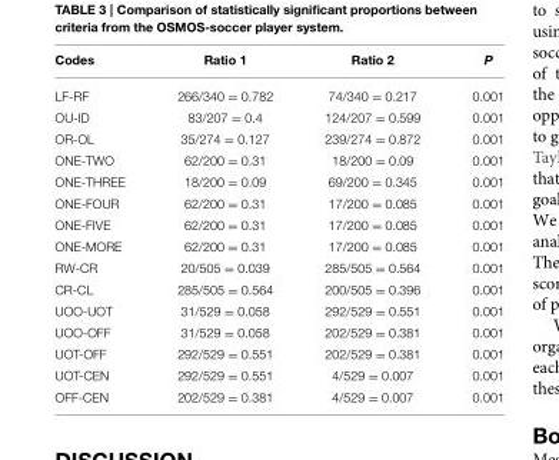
<table><thead><tr><td>Codes</td><td>Ratio 1</td><td>Ratio 2</td><td>P</td></tr></thead><tbody><tr><td>LF-RF</td><td>266/340 = 0.782</td><td>74/340 = 0.217</td><td>0.001</td></tr><tr><td>OU-ID</td><td>83/207 = 0.4</td><td>124/207 = 0.599</td><td>0.001</td></tr><tr><td>OR-OL</td><td>35/274 = 0.127</td><td>239/274 = 0.872</td><td>0.001</td></tr><tr><td>ONE-TWO</td><td>62/200 = 0.31</td><td>18/200 = 0.09</td><td>0.001</td></tr><tr><td>ONE-THREE</td><td>18/200 = 0.09</td><td>69/200 = 0.345</td><td>0.001</td></tr><tr><td>ONE-FOUR</td><td>62/200 = 0.31</td><td>17/200 = 0.085</td><td>0.001</td></tr><tr><td>ONE-FIVE</td><td>62/200 = 0.31</td><td>17/200 = 0.085</td><td>0.001</td></tr><tr><td>ONE-MORE</td><td>62/200 = 0.31</td><td>17/200 = 0.085</td><td>0.001</td></tr><tr><td>RW-CR</td><td>20/505 = 0.039</td><td>285/505 = 0.564</td><td>0.001</td></tr><tr><td>CR-CL</td><td>285/505 = 0.564</td><td>200/505 = 0.396</td><td>0.001</td></tr><tr><td>UOO-UOT</td><td>31/529 = 0.058</td><td>292/529 = 0.551</td><td>0.001</td></tr><tr><td>UOO-OFF</td><td>31/529 = 0.058</td><td>202/529 = 0.381</td><td>0.001</td></tr><tr><td>UOT-OFF</td><td>292/529 = 0.551</td><td>202/529 = 0.381</td><td>0.001</td></tr><tr><td>UOT-CEN</td><td>292/529 = 0.551</td><td>4/529 = 0.007</td><td>0.001</td></tr><tr><td>OFF-CEN</td><td>202/529 = 0.381</td><td>4/529 = 0.007</td><td>0.001</td></tr></tbody></table>